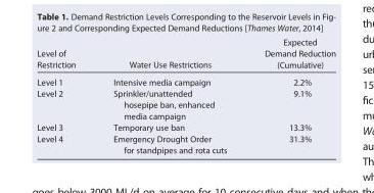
<table><thead><tr><td>Level of Restriction</td><td>Water Use Restrictions</td><td>Expected Demand Reduction (Cumulative)</td></tr></thead><tbody><tr><td>Level 1</td><td>Intensive media campaign</td><td>2.2%</td></tr><tr><td>Level 2</td><td>Sprinkler/unattended hosepipe ban, enhanced media campaign</td><td>9.1%</td></tr><tr><td>Level 3</td><td>Temporary use ban</td><td>13.3%</td></tr><tr><td>Level 4</td><td>Emergency Drought Order for standpipes and rota cuts</td><td>31.3%</td></tr></tbody></table>